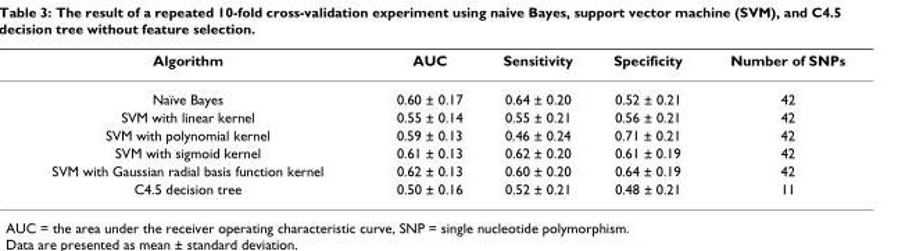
<table><thead><tr><td>Algorithm</td><td>AUC</td><td>Sensitivity</td><td>Specificity</td><td>Number of SNPs</td></tr></thead><tbody><tr><td>Naïve Bayes</td><td>0.60 ± 0.17</td><td>0.64 ± 0.20</td><td>0.52 ± 0.21</td><td>42</td></tr><tr><td>SVM with linear kernel</td><td>0.55 ± 0.14</td><td>0.55 ± 0.21</td><td>0.56 ± 0.21</td><td>42</td></tr><tr><td>SVM with polynomial kernel</td><td>0.59 ± 0.13</td><td>0.46 ± 0.24</td><td>0.71 ± 0.21</td><td>42</td></tr><tr><td>SVM with sigmoid kernel</td><td>0.61 ± 0.13</td><td>0.62 ± 0.20</td><td>0.61 ± 0.19</td><td>42</td></tr><tr><td>SVM with Gaussian radial basis function kernel</td><td>0.62 ± 0.13</td><td>0.60 ± 0.20</td><td>0.64 ± 0.19</td><td>42</td></tr><tr><td>C4.5 decision tree</td><td>0.50 ± 0.16</td><td>0.52 ± 0.21</td><td>0.48 ± 0.21</td><td>11</td></tr></tbody></table>